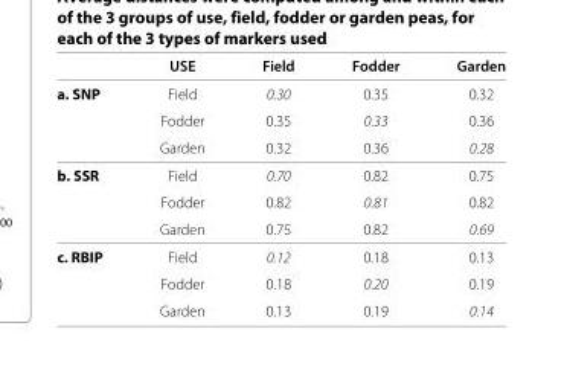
<table><thead><tr><td></td><td>USE</td><td>Field</td><td>Fodder</td><td>Garden</td></tr></thead><tbody><tr><td rowspan="3">a. SNP</td><td>Field</td><td>0.30</td><td>0.35</td><td>0.32</td></tr><tr><td>Fodder</td><td>0.35</td><td>0.33</td><td>0.36</td></tr><tr><td>Garden</td><td>0.32</td><td>0.36</td><td>0.28</td></tr><tr><td rowspan="3">b. SSR</td><td>Field</td><td>0.70</td><td>0.82</td><td>0.75</td></tr><tr><td>Fodder</td><td>0.82</td><td>0.81</td><td>0.82</td></tr><tr><td>Garden</td><td>0.75</td><td>0.82</td><td>0.69</td></tr><tr><td rowspan="3">c. RBIP</td><td>Field</td><td>0.12</td><td>0.18</td><td>0.13</td></tr><tr><td>Fodder</td><td>0.18</td><td>0.20</td><td>0.19</td></tr><tr><td>Garden</td><td>0.13</td><td>0.19</td><td>0.14</td></tr></tbody></table>